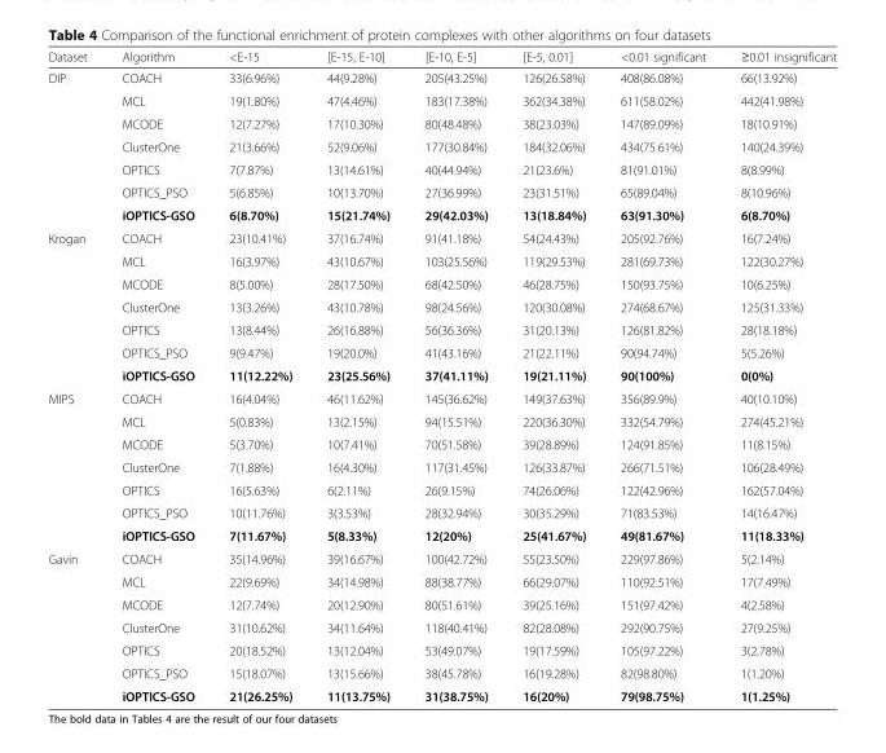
<table><thead><tr><td>Dataset</td><td>Algorithm</td><td>&lt;E-15</td><td>[E-15, E-10]</td><td>[E-10, E-5]</td><td>[E-5, 0.01]</td><td>&lt;0.01 significant</td><td>≥0.01 insignificant</td></tr></thead><tbody><tr><td rowspan="7">DIP</td><td>COACH</td><td>33(6.96%)</td><td>44(9.28%)</td><td>205(43.25%)</td><td>126(26.58%)</td><td>408(86.08%)</td><td>66(13.92%)</td></tr><tr><td>MCL</td><td>19(1.80%)</td><td>47(4.46%)</td><td>183(17.38%)</td><td>362(34.38%)</td><td>611(58.02%)</td><td>442(41.98%)</td></tr><tr><td>MCODE</td><td>12(7.27%)</td><td>17(10.30%)</td><td>80(48.48%)</td><td>38(23.03%)</td><td>147(89.09%)</td><td>18(10.91%)</td></tr><tr><td>ClusterOne</td><td>21(3.66%)</td><td>52(9.06%)</td><td>177(30.84%)</td><td>184(32.06%)</td><td>434(75.61%)</td><td>140(24.39%)</td></tr><tr><td>OPTICS</td><td>7(7.87%)</td><td>13(14.61%)</td><td>40(44.94%)</td><td>21(23.6%)</td><td>81(91.01%)</td><td>8(8.99%)</td></tr><tr><td>OPTICS_PSO</td><td>5(6.85%)</td><td>10(13.70%)</td><td>27(36.99%)</td><td>23(31.51%)</td><td>65(89.04%)</td><td>8(10.96%)</td></tr><tr><td>iOPTICS-GSO</td><td>6(8.70%)</td><td>15(21.74%)</td><td>29(42.03%)</td><td>13(18.84%)</td><td>63(91.30%)</td><td>6(8.70%)</td></tr><tr><td rowspan="7">Krogan</td><td>COACH</td><td>23(10.41%)</td><td>37(16.74%)</td><td>91(41.18%)</td><td>54(24.43%)</td><td>205(92.76%)</td><td>16(7.24%)</td></tr><tr><td>MCL</td><td>16(3.97%)</td><td>43(10.67%)</td><td>103(25.56%)</td><td>119(29.53%)</td><td>281(69.73%)</td><td>122(30.27%)</td></tr><tr><td>MCODE</td><td>8(5.00%)</td><td>28(17.50%)</td><td>68(42.50%)</td><td>46(28.75%)</td><td>150(93.75%)</td><td>10(6.25%)</td></tr><tr><td>ClusterOne</td><td>13(3.26%)</td><td>43(10.78%)</td><td>98(24.56%)</td><td>120(30.08%)</td><td>274(68.67%)</td><td>125(31.33%)</td></tr><tr><td>OPTICS</td><td>13(8.44%)</td><td>26(16.88%)</td><td>56(36.36%)</td><td>31(20.13%)</td><td>126(81.82%)</td><td>28(18.18%)</td></tr><tr><td>OPTICS_PSO</td><td>9(9.47%)</td><td>19(20.0%)</td><td>41(43.16%)</td><td>21(22.11%)</td><td>90(94.74%)</td><td>5(5.26%)</td></tr><tr><td>iOPTICS-GSO</td><td>11(12.22%)</td><td>23(25.56%)</td><td>37(41.11%)</td><td>19(21.11%)</td><td>90(100%)</td><td>0(0%)</td></tr><tr><td rowspan="7">MIPS</td><td>COACH</td><td>16(4.04%)</td><td>46(11.62%)</td><td>145(36.62%)</td><td>149(37.63%)</td><td>356(89.9%)</td><td>40(10.10%)</td></tr><tr><td>MCL</td><td>5(0.83%)</td><td>13(2.15%)</td><td>94(15.51%)</td><td>220(36.30%)</td><td>332(54.79%)</td><td>274(45.21%)</td></tr><tr><td>MCODE</td><td>5(3.70%)</td><td>10(7.41%)</td><td>70(51.58%)</td><td>39(28.89%)</td><td>124(91.85%)</td><td>11(8.15%)</td></tr><tr><td>ClusterOne</td><td>7(1.88%)</td><td>16(4.30%)</td><td>117(31.45%)</td><td>126(33.87%)</td><td>266(71.51%)</td><td>106(28.49%)</td></tr><tr><td>OPTICS</td><td>16(5.63%)</td><td>6(2.11%)</td><td>26(9.15%)</td><td>74(26.06%)</td><td>122(42.96%)</td><td>162(57.04%)</td></tr><tr><td>OPTICS_PSO</td><td>10(11.76%)</td><td>3(3.53%)</td><td>28(32.94%)</td><td>30(35.29%)</td><td>71(83.53%)</td><td>14(16.47%)</td></tr><tr><td>iOPTICS-GSO</td><td>7(11.67%)</td><td>5(8.33%)</td><td>12(20%)</td><td>25(41.67%)</td><td>49(81.67%)</td><td>11(18.33%)</td></tr><tr><td rowspan="7">Gavin</td><td>COACH</td><td>35(14.96%)</td><td>39(16.67%)</td><td>100(42.72%)</td><td>55(23.50%)</td><td>229(97.86%)</td><td>5(2.14%)</td></tr><tr><td>MCL</td><td>22(9.69%)</td><td>34(14.98%)</td><td>88(38.77%)</td><td>66(29.07%)</td><td>110(92.51%)</td><td>17(7.49%)</td></tr><tr><td>MCODE</td><td>12(7.74%)</td><td>20(12.90%)</td><td>80(51.61%)</td><td>39(25.16%)</td><td>151(97.42%)</td><td>4(2.58%)</td></tr><tr><td>ClusterOne</td><td>31(10.62%)</td><td>34(11.64%)</td><td>118(40.41%)</td><td>82(28.08%)</td><td>292(90.75%)</td><td>27(9.25%)</td></tr><tr><td>OPTICS</td><td>20(18.52%)</td><td>13(12.04%)</td><td>53(49.07%)</td><td>19(17.59%)</td><td>105(97.22%)</td><td>3(2.78%)</td></tr><tr><td>OPTICS_PSO</td><td>15(18.07%)</td><td>13(15.66%)</td><td>38(45.78%)</td><td>16(19.28%)</td><td>82(98.80%)</td><td>1(1.20%)</td></tr><tr><td>iOPTICS-GSO</td><td>21(26.25%)</td><td>11(13.75%)</td><td>31(38.75%)</td><td>16(20%)</td><td>79(98.75%)</td><td>1(1.25%)</td></tr></tbody></table>